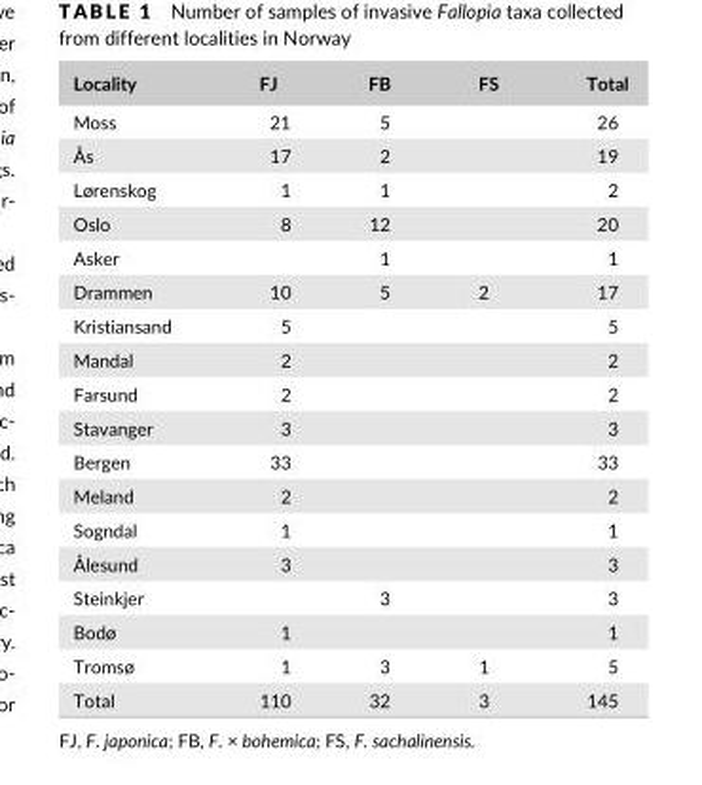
<table><thead><tr><td>Locality</td><td>FJ</td><td>FB</td><td>FS</td><td>Total</td></tr></thead><tbody><tr><td>Moss</td><td>21</td><td>5</td><td></td><td>26</td></tr><tr><td>Ås</td><td>17</td><td>2</td><td></td><td>19</td></tr><tr><td>Lørenskog</td><td>1</td><td>1</td><td></td><td>2</td></tr><tr><td>Oslo</td><td>8</td><td>12</td><td></td><td>20</td></tr><tr><td>Asker</td><td></td><td>1</td><td></td><td>1</td></tr><tr><td>Drammen</td><td>10</td><td>5</td><td>2</td><td>17</td></tr><tr><td>Kristiansand</td><td>5</td><td></td><td></td><td>5</td></tr><tr><td>Mandal</td><td>2</td><td></td><td></td><td>2</td></tr><tr><td>Farsund</td><td>2</td><td></td><td></td><td>2</td></tr><tr><td>Stavanger</td><td>3</td><td></td><td></td><td>3</td></tr><tr><td>Bergen</td><td>33</td><td></td><td></td><td>33</td></tr><tr><td>Meland</td><td>2</td><td></td><td></td><td>2</td></tr><tr><td>Sogndal</td><td>1</td><td></td><td></td><td>1</td></tr><tr><td>Ålesund</td><td>3</td><td></td><td></td><td>3</td></tr><tr><td>Steinkjer</td><td></td><td>3</td><td></td><td>3</td></tr><tr><td>Bodø</td><td>1</td><td></td><td></td><td>1</td></tr><tr><td>Tromsø</td><td>1</td><td>3</td><td>1</td><td>5</td></tr><tr><td>Total</td><td>110</td><td>32</td><td>3</td><td>145</td></tr></tbody></table>